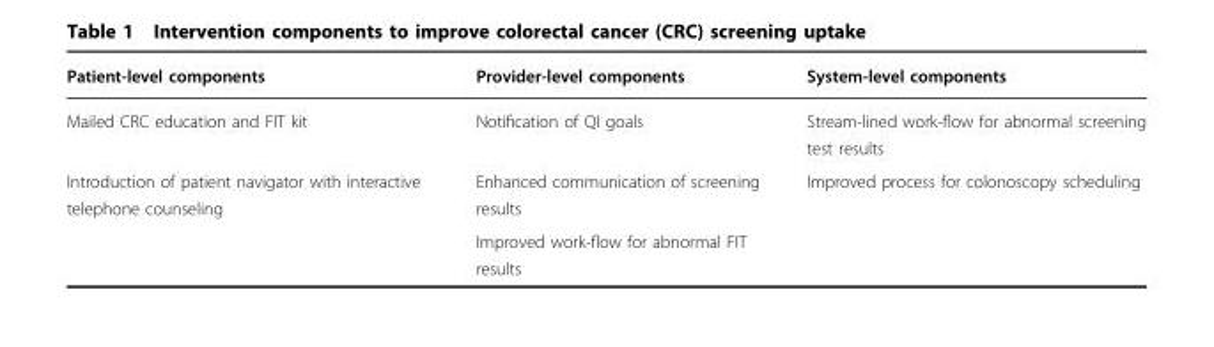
<table><thead><tr><td>Patient-level components</td><td>Provider-level components</td><td>System-level components</td></tr></thead><tbody><tr><td>Mailed CRC education and FIT kit</td><td>Notification of QI goals</td><td>Stream-lined work-flow for abnormal screening test results</td></tr><tr><td rowspan="2">Introduction of patient navigator with interactive telephone counseling</td><td>Enhanced communication of screening results</td><td>Improved process for colonoscopy scheduling</td></tr><tr><td>Improved work-flow for abnormal FIT results</td><td></td></tr></tbody></table>